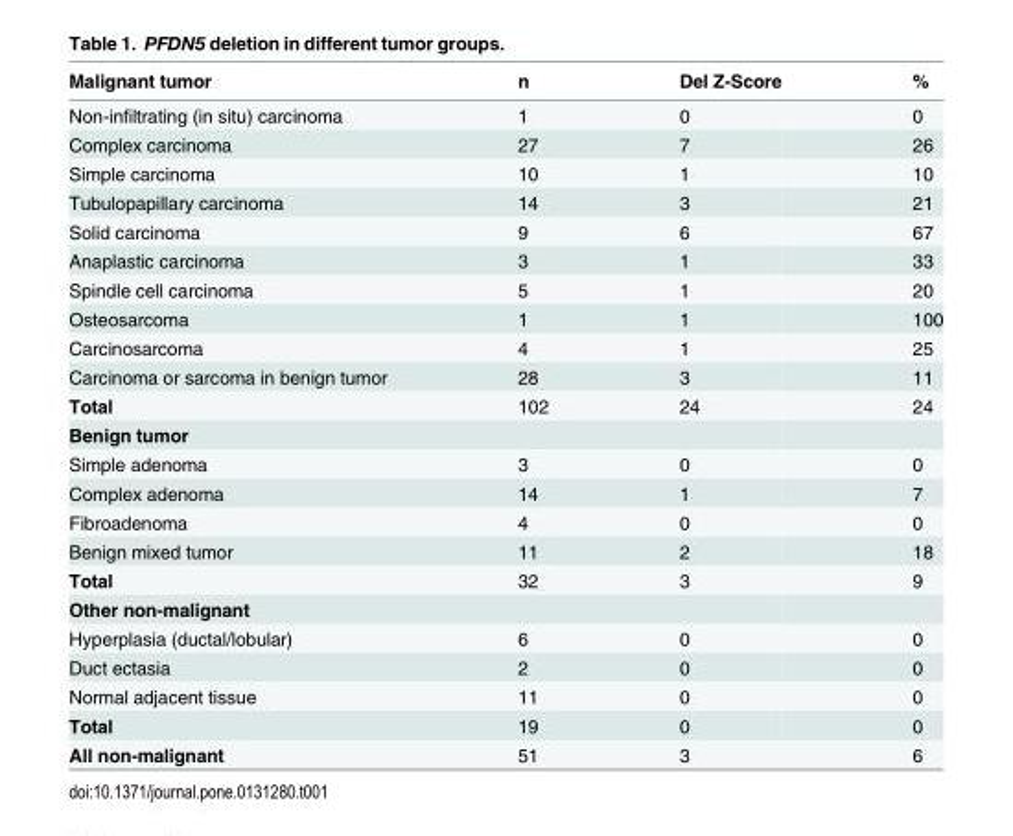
<table><thead><tr><td>Malignant tumor</td><td>n</td><td>Del Z-Score</td><td>%</td></tr></thead><tbody><tr><td>Non-infiltrating (in situ) carcinoma</td><td>1</td><td>0</td><td>0</td></tr><tr><td>Complex carcinoma</td><td>27</td><td>7</td><td>26</td></tr><tr><td>Simple carcinoma</td><td>10</td><td>1</td><td>10</td></tr><tr><td>Tubulopapillary carcinoma</td><td>14</td><td>3</td><td>21</td></tr><tr><td>Solid carcinoma</td><td>9</td><td>6</td><td>67</td></tr><tr><td>Anaplastic carcinoma</td><td>3</td><td>1</td><td>33</td></tr><tr><td>Spindle cell carcinoma</td><td>5</td><td>1</td><td>20</td></tr><tr><td>Osteosarcoma</td><td>1</td><td>1</td><td>100</td></tr><tr><td>Carcinosarcoma</td><td>4</td><td>1</td><td>25</td></tr><tr><td>Carcinoma or sarcoma in benign tumor</td><td>28</td><td>3</td><td>11</td></tr><tr><td>Total</td><td>102</td><td>24</td><td>24</td></tr><tr><td colspan="4">Benign tumor</td></tr><tr><td>Simple adenoma</td><td>3</td><td>0</td><td>0</td></tr><tr><td>Complex adenoma</td><td>14</td><td>1</td><td>7</td></tr><tr><td>Fibroadenoma</td><td>4</td><td>0</td><td>0</td></tr><tr><td>Benign mixed tumor</td><td>11</td><td>2</td><td>18</td></tr><tr><td>Total</td><td>32</td><td>3</td><td>9</td></tr><tr><td colspan="4">Other non-malignant</td></tr><tr><td>Hyperplasia (ductal/lobular)</td><td>6</td><td>0</td><td>0</td></tr><tr><td>Duct ectasia</td><td>2</td><td>0</td><td>0</td></tr><tr><td>Normal adjacent tissue</td><td>11</td><td>0</td><td>0</td></tr><tr><td>Total</td><td>19</td><td>0</td><td>0</td></tr><tr><td>All non-malignant</td><td>51</td><td>3</td><td>6</td></tr></tbody></table>